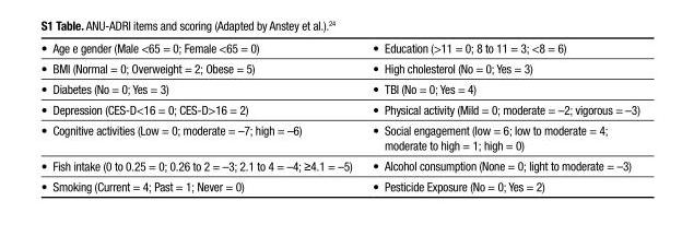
<table><tbody><tr><td>• Age e gender (Male &lt;65 = 0; Female &lt;65 = 0)</td><td>• Education (&gt;11 = 0; 8 to 11 = 3; &lt;8 = 6)</td></tr><tr><td>• BMI (Normal = 0; Overweight = 2; Obese = 5)</td><td>• High cholesterol (No = 0; Yes = 3)</td></tr><tr><td>• Diabetes (No = 0; Yes = 3)</td><td>• TBI (No = 0; Yes = 4)</td></tr><tr><td>• Depression (CES-D&lt;16 = 0; CES-D&gt;16 = 2)</td><td>• Physical activity (Mild = 0; moderate = –2; vigorous = –3)</td></tr><tr><td>• Cognitive activities (Low = 0; moderate = –7; high = –6)</td><td>• Social engagement (low = 6; low to moderate = 4; moderate to high = 1; high = 0)</td></tr><tr><td>• Fish intake (0 to 0.25 = 0; 0.26 to 2 = –3; 2.1 to 4 = –4; ≥4.1 = –5)</td><td>• Alcohol consumption (None = 0; light to moderate = –3)</td></tr><tr><td>• Smoking (Current = 4; Past = 1; Never = 0)</td><td>• Pesticide Exposure (No = 0; Yes = 2)</td></tr></tbody></table>